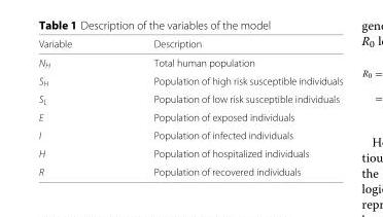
<table><thead><tr><td>Variable</td><td>Description</td></tr></thead><tbody><tr><td>N<sub>H</sub></td><td>Total human population</td></tr><tr><td>S<sub>H</sub></td><td>Population of high risk susceptible individuals</td></tr><tr><td>S<sub>L</sub></td><td>Population of low risk susceptible individuals</td></tr><tr><td>E</td><td>Population of exposed individuals</td></tr><tr><td>I</td><td>Population of infected individuals</td></tr><tr><td>H</td><td>Population of hospitalized individuals</td></tr><tr><td>R</td><td>Population of recovered individuals</td></tr></tbody></table>